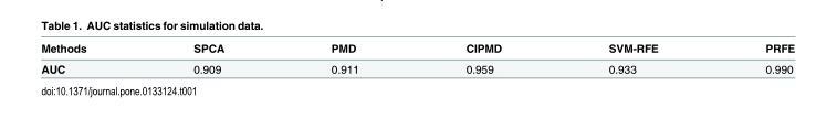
<table><thead><tr><td>Methods</td><td>SPCA</td><td>PMD</td><td>CIPMD</td><td>SVM-RFE</td><td>PRFE</td></tr></thead><tbody><tr><td>AUC</td><td>0.909</td><td>0.911</td><td>0.959</td><td>0.933</td><td>0.990</td></tr></tbody></table>